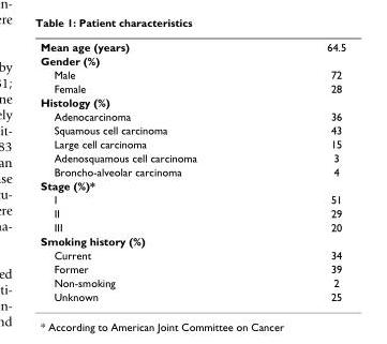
<table><tbody><tr><td>Mean age (years)</td><td>64.5</td></tr><tr><td colspan="2">Gender (%)</td></tr><tr><td>Male</td><td>72</td></tr><tr><td>Female</td><td>28</td></tr><tr><td colspan="2">Histology (%)</td></tr><tr><td>Adenocarcinoma</td><td>36</td></tr><tr><td>Squamous cell carcinoma</td><td>43</td></tr><tr><td>Large cell carcinoma</td><td>15</td></tr><tr><td>Adenosquamous cell carcinoma</td><td>3</td></tr><tr><td>Broncho-alveolar carcinoma</td><td>4</td></tr><tr><td colspan="2">Stage (%)*</td></tr><tr><td>I</td><td>51</td></tr><tr><td>II</td><td>29</td></tr><tr><td>III</td><td>20</td></tr><tr><td colspan="2">Smoking history (%)</td></tr><tr><td>Current</td><td>34</td></tr><tr><td>Former</td><td>39</td></tr><tr><td>Non-smoking</td><td>2</td></tr><tr><td>Unknown</td><td>25</td></tr></tbody></table>